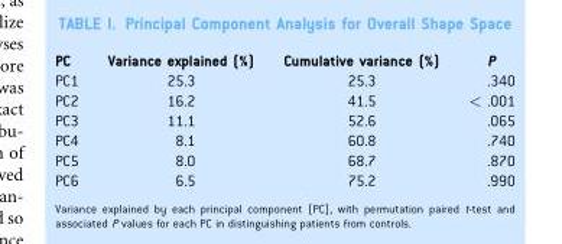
<table><thead><tr><td>PC</td><td>Variance explained (%)</td><td>Cumulative variance (%)</td><td>P</td></tr></thead><tbody><tr><td>PC1</td><td>25.3</td><td>25.3</td><td>.340</td></tr><tr><td>PC2</td><td>16.2</td><td>41.5</td><td>&lt; .001</td></tr><tr><td>PC3</td><td>11.1</td><td>52.6</td><td>.065</td></tr><tr><td>PC4</td><td>8.1</td><td>60.8</td><td>.740</td></tr><tr><td>PC5</td><td>8.0</td><td>68.7</td><td>.870</td></tr><tr><td>PC6</td><td>6.5</td><td>75.2</td><td>.990</td></tr></tbody></table>